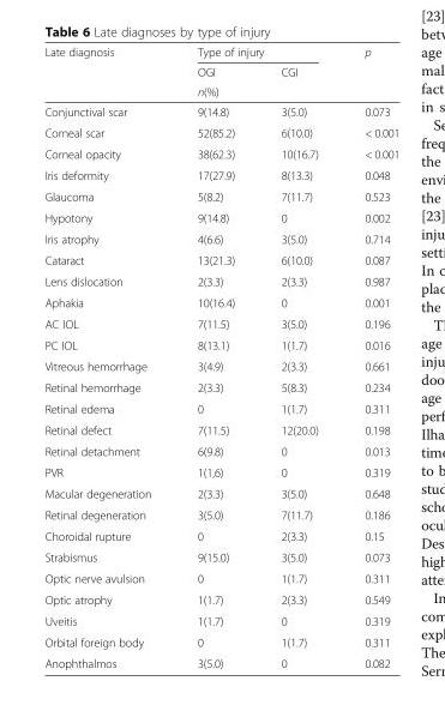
<table><thead><tr><td rowspan="3">Late diagnosis</td><td colspan="2">Type of injury</td><td rowspan="3">p</td></tr><tr><td>OGI</td><td>CGI</td></tr><tr><td colspan="2">n(%)</td></tr></thead><tbody><tr><td>Conjunctival scar</td><td>9(14.8)</td><td>3(5.0)</td><td>0.073</td></tr><tr><td>Corneal scar</td><td>52(85.2)</td><td>6(10.0)</td><td>&lt; 0.001</td></tr><tr><td>Corneal opacity</td><td>38(62.3)</td><td>10(16.7)</td><td>&lt; 0.001</td></tr><tr><td>Iris deformity</td><td>17(27.9)</td><td>8(13.3)</td><td>0.048</td></tr><tr><td>Glaucoma</td><td>5(8.2)</td><td>7(11.7)</td><td>0.523</td></tr><tr><td>Hypotony</td><td>9(14.8)</td><td>0</td><td>0.002</td></tr><tr><td>Iris atrophy</td><td>4(6.6)</td><td>3(5.0)</td><td>0.714</td></tr><tr><td>Cataract</td><td>13(21.3)</td><td>6(10.0)</td><td>0.087</td></tr><tr><td>Lens dislocation</td><td>2(3.3)</td><td>2(3.3)</td><td>0.987</td></tr><tr><td>Aphakia</td><td>10(16.4)</td><td>0</td><td>0.001</td></tr><tr><td>AC IOL</td><td>7(11.5)</td><td>3(5.0)</td><td>0.196</td></tr><tr><td>PC IOL</td><td>8(13.1)</td><td>1(1.7)</td><td>0.016</td></tr><tr><td>Vitreous hemorrhage</td><td>3(4.9)</td><td>2(3.3)</td><td>0.661</td></tr><tr><td>Retinal hemorrhage</td><td>2(3.3)</td><td>5(8.3)</td><td>0.234</td></tr><tr><td>Retinal edema</td><td>0</td><td>1(1.7)</td><td>0.311</td></tr><tr><td>Retinal defect</td><td>7(11.5)</td><td>12(20.0)</td><td>0.198</td></tr><tr><td>Retinal detachment</td><td>6(9.8)</td><td>0</td><td>0.013</td></tr><tr><td>PVR</td><td>1(1,6)</td><td>0</td><td>0.319</td></tr><tr><td>Macular degeneration</td><td>2(3.3)</td><td>3(5.0)</td><td>0.648</td></tr><tr><td>Retinal degeneration</td><td>3(5.0)</td><td>7(11.7)</td><td>0.186</td></tr><tr><td>Choroidal rupture</td><td>0</td><td>2(3.3)</td><td>0.15</td></tr><tr><td>Strabismus</td><td>9(15.0)</td><td>3(5.0)</td><td>0.073</td></tr><tr><td>Optic nerve avulsion</td><td>0</td><td>1(1.7)</td><td>0.311</td></tr><tr><td>Optic atrophy</td><td>1(1.7)</td><td>2(3.3)</td><td>0.549</td></tr><tr><td>Uveitis</td><td>1(1.7)</td><td>0</td><td>0.319</td></tr><tr><td>Orbital foreign body</td><td>0</td><td>1(1.7)</td><td>0.311</td></tr><tr><td>Anophthalmos</td><td>3(5.0)</td><td>0</td><td>0.082</td></tr></tbody></table>